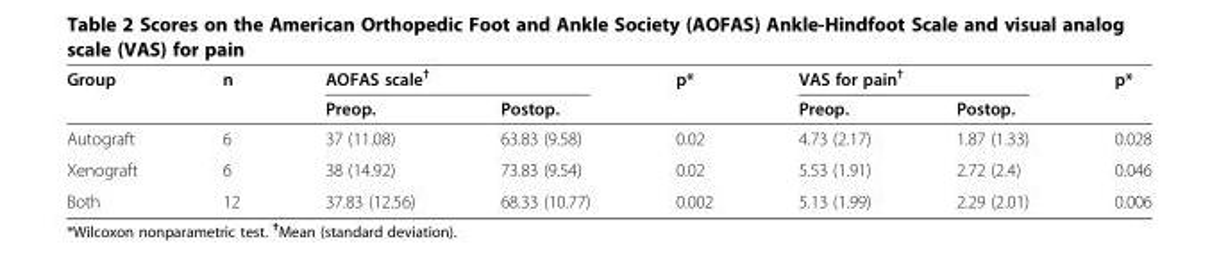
<table><thead><tr><td rowspan="2">Group</td><td rowspan="2">n</td><td colspan="2">AOFAS scale<sup>†</sup></td><td rowspan="2">p*</td><td colspan="2">VAS for pain<sup>†</sup></td><td rowspan="2">p*</td></tr><tr><td>Preop.</td><td>Postop.</td><td>Preop.</td><td>Postop.</td></tr></thead><tbody><tr><td>Autograft</td><td>6</td><td>37 (11.08)</td><td>63.83 (9.58)</td><td>0.02</td><td>4.73 (2.17)</td><td>1.87 (1.33)</td><td>0.028</td></tr><tr><td>Xenograft</td><td>6</td><td>38 (14.92)</td><td>73.83 (9.54)</td><td>0.02</td><td>5.53 (1.91)</td><td>2.72 (2.4)</td><td>0.046</td></tr><tr><td>Both</td><td>12</td><td>37.83 (12.56)</td><td>68.33 (10.77)</td><td>0.002</td><td>5.13 (1.99)</td><td>2.29 (2.01)</td><td>0.006</td></tr></tbody></table>